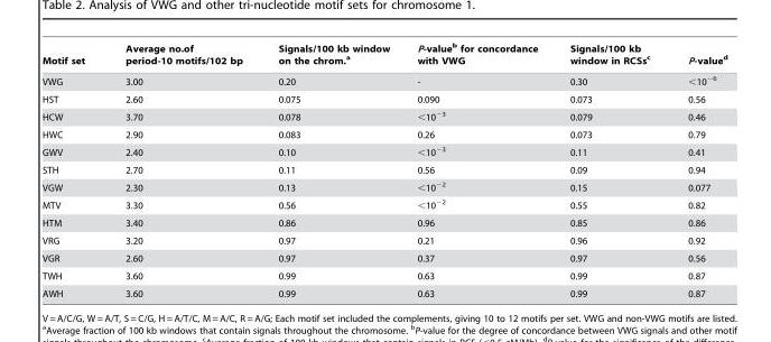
<table><thead><tr><td>Motif set</td><td>Average no.of period-10 motifs/102 bp</td><td>Signals/100 kb window on the chrom.<sup>a</sup></td><td>P-value<sup>b</sup> for concordance with VWG</td><td>Signals/100 kb window in RCSs<sup>c</sup></td><td>P-value<sup>d</sup></td></tr></thead><tbody><tr><td>VWG</td><td>3.00</td><td>0.20</td><td>-</td><td>0.30</td><td>&lt;10<sup>−6</sup></td></tr><tr><td>HST</td><td>2.60</td><td>0.075</td><td>0.090</td><td>0.073</td><td>0.56</td></tr><tr><td>HCW</td><td>3.70</td><td>0.078</td><td>&lt;10<sup>−3</sup></td><td>0.079</td><td>0.46</td></tr><tr><td>HWC</td><td>2.90</td><td>0.083</td><td>0.26</td><td>0.073</td><td>0.79</td></tr><tr><td>GWV</td><td>2.40</td><td>0.10</td><td>&lt;10<sup>−3</sup></td><td>0.11</td><td>0.41</td></tr><tr><td>STH</td><td>2.70</td><td>0.11</td><td>0.56</td><td>0.09</td><td>0.94</td></tr><tr><td>VGW</td><td>2.30</td><td>0.13</td><td>&lt;10<sup>−2</sup></td><td>0.15</td><td>0.077</td></tr><tr><td>MTV</td><td>3.30</td><td>0.56</td><td>&lt;10<sup>−2</sup></td><td>0.55</td><td>0.82</td></tr><tr><td>HTM</td><td>3.40</td><td>0.86</td><td>0.96</td><td>0.85</td><td>0.86</td></tr><tr><td>VRG</td><td>3.20</td><td>0.97</td><td>0.21</td><td>0.96</td><td>0.92</td></tr><tr><td>VGR</td><td>2.60</td><td>0.97</td><td>0.37</td><td>0.97</td><td>0.56</td></tr><tr><td>TWH</td><td>3.60</td><td>0.99</td><td>0.63</td><td>0.99</td><td>0.87</td></tr><tr><td>AWH</td><td>3.60</td><td>0.99</td><td>0.63</td><td>0.99</td><td>0.87</td></tr></tbody></table>